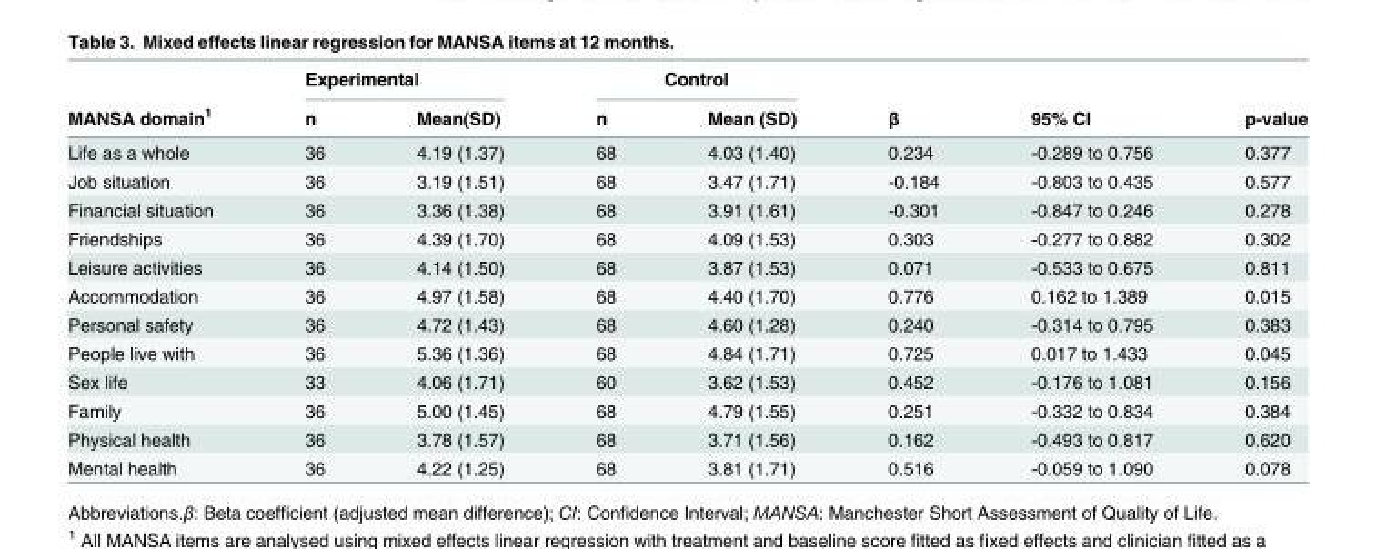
<table><thead><tr><td rowspan="2">MANSA domain<sup>1</sup></td><td colspan="2">Experimental</td><td colspan="2">Control</td><td rowspan="2">β</td><td rowspan="2">95% CI</td><td rowspan="2">p-value</td></tr><tr><td>n</td><td>Mean(SD)</td><td>n</td><td>Mean (SD)</td></tr></thead><tbody><tr><td>Life as a whole</td><td>36</td><td>4.19 (1.37)</td><td>68</td><td>4.03 (1.40)</td><td>0.234</td><td>-0.289 to 0.756</td><td>0.377</td></tr><tr><td>Job situation</td><td>36</td><td>3.19 (1.51)</td><td>68</td><td>3.47 (1.71)</td><td>-0.184</td><td>-0.803 to 0.435</td><td>0.577</td></tr><tr><td>Financial situation</td><td>36</td><td>3.36 (1.38)</td><td>68</td><td>3.91 (1.61)</td><td>-0.301</td><td>-0.847 to 0.246</td><td>0.278</td></tr><tr><td>Friendships</td><td>36</td><td>4.39 (1.70)</td><td>68</td><td>4.09 (1.53)</td><td>0.303</td><td>-0.277 to 0.882</td><td>0.302</td></tr><tr><td>Leisure activities</td><td>36</td><td>4.14 (1.50)</td><td>68</td><td>3.87 (1.53)</td><td>0.071</td><td>-0.533 to 0.675</td><td>0.811</td></tr><tr><td>Accommodation</td><td>36</td><td>4.97 (1.58)</td><td>68</td><td>4.40 (1.70)</td><td>0.776</td><td>0.162 to 1.389</td><td>0.015</td></tr><tr><td>Personal safety</td><td>36</td><td>4.72 (1.43)</td><td>68</td><td>4.60 (1.28)</td><td>0.240</td><td>-0.314 to 0.795</td><td>0.383</td></tr><tr><td>People live with</td><td>36</td><td>5.36 (1.36)</td><td>68</td><td>4.84 (1.71)</td><td>0.725</td><td>0.017 to 1.433</td><td>0.045</td></tr><tr><td>Sex life</td><td>33</td><td>4.06 (1.71)</td><td>60</td><td>3.62 (1.53)</td><td>0.452</td><td>-0.176 to 1.081</td><td>0.156</td></tr><tr><td>Family</td><td>36</td><td>5.00 (1.45)</td><td>68</td><td>4.79 (1.55)</td><td>0.251</td><td>-0.332 to 0.834</td><td>0.384</td></tr><tr><td>Physical health</td><td>36</td><td>3.78 (1.57)</td><td>68</td><td>3.71 (1.56)</td><td>0.162</td><td>-0.493 to 0.817</td><td>0.620</td></tr><tr><td>Mental health</td><td>36</td><td>4.22 (1.25)</td><td>68</td><td>3.81 (1.71)</td><td>0.516</td><td>-0.059 to 1.090</td><td>0.078</td></tr></tbody></table>